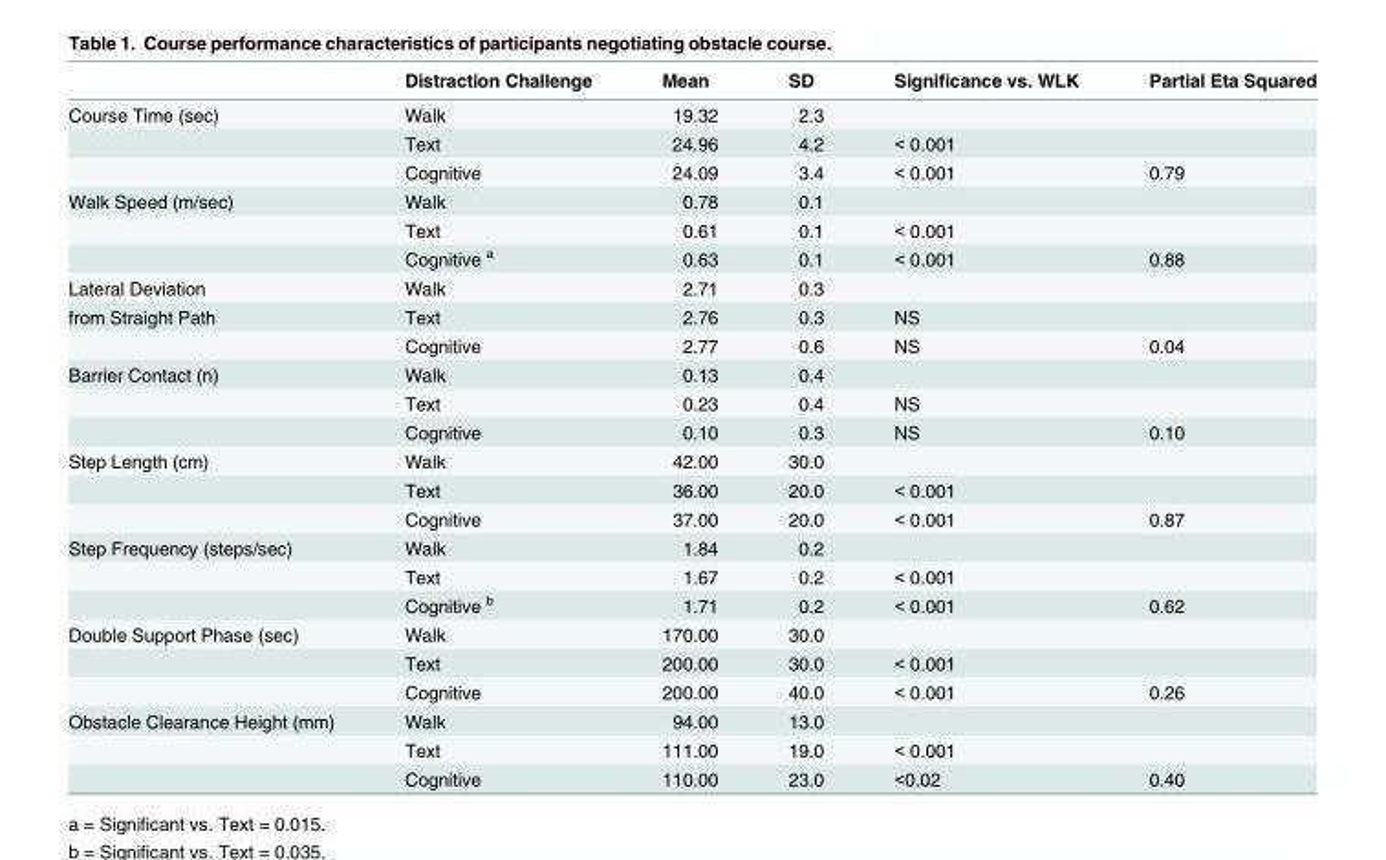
<table><thead><tr><td></td><td>Distraction Challenge</td><td>Mean</td><td>SD</td><td>Significance vs. WLK</td><td>Partial Eta Squared</td></tr></thead><tbody><tr><td rowspan="3">Course Time (sec)</td><td>Walk</td><td>19.32</td><td>2.3</td><td></td><td></td></tr><tr><td>Text</td><td>24.96</td><td>4.2</td><td>&lt; 0.001</td><td></td></tr><tr><td>Cognitive</td><td>24.09</td><td>3.4</td><td>&lt; 0.001</td><td>0.79</td></tr><tr><td rowspan="3">Walk Speed (m/sec)</td><td>Walk</td><td>0.78</td><td>0.1</td><td></td><td></td></tr><tr><td>Text</td><td>0.61</td><td>0.1</td><td>&lt; 0.001</td><td></td></tr><tr><td>Cognitive <sup>a</sup></td><td>0.63</td><td>0.1</td><td>&lt; 0.001</td><td>0.88</td></tr><tr><td>Lateral Deviation</td><td>Walk</td><td>2.71</td><td>0.3</td><td></td><td></td></tr><tr><td rowspan="2">from Straight Path</td><td>Text</td><td>2.76</td><td>0.3</td><td>NS</td><td></td></tr><tr><td>Cognitive</td><td>2.77</td><td>0.6</td><td>NS</td><td>0.04</td></tr><tr><td rowspan="3">Barrier Contact (n)</td><td>Walk</td><td>0.13</td><td>0.4</td><td></td><td></td></tr><tr><td>Text</td><td>0.23</td><td>0.4</td><td>NS</td><td></td></tr><tr><td>Cognitive</td><td>0.10</td><td>0.3</td><td>NS</td><td>0.10</td></tr><tr><td rowspan="3">Step Length (cm)</td><td>Walk</td><td>42.00</td><td>30.0</td><td></td><td></td></tr><tr><td>Text</td><td>36.00</td><td>20.0</td><td>&lt; 0.001</td><td></td></tr><tr><td>Cognitive</td><td>37.00</td><td>20.0</td><td>&lt; 0.001</td><td>0.87</td></tr><tr><td rowspan="3">Step Frequency (steps/sec)</td><td>Walk</td><td>1.84</td><td>0.2</td><td></td><td></td></tr><tr><td>Text</td><td>1.67</td><td>0.2</td><td>&lt; 0.001</td><td></td></tr><tr><td>Cognitive <sup>b</sup></td><td>1.71</td><td>0.2</td><td>&lt; 0.001</td><td>0.62</td></tr><tr><td rowspan="3">Double Support Phase (sec)</td><td>Walk</td><td>170.00</td><td>30.0</td><td></td><td></td></tr><tr><td>Text</td><td>200.00</td><td>30.0</td><td>&lt; 0.001</td><td></td></tr><tr><td>Cognitive</td><td>200.00</td><td>40.0</td><td>&lt; 0.001</td><td>0.26</td></tr><tr><td rowspan="3">Obstacle Clearance Height (mm)</td><td>Walk</td><td>94.00</td><td>13.0</td><td></td><td></td></tr><tr><td>Text</td><td>111.00</td><td>19.0</td><td>&lt; 0.001</td><td></td></tr><tr><td>Cognitive</td><td>110.00</td><td>23.0</td><td>&lt;0.02</td><td>0.40</td></tr></tbody></table>